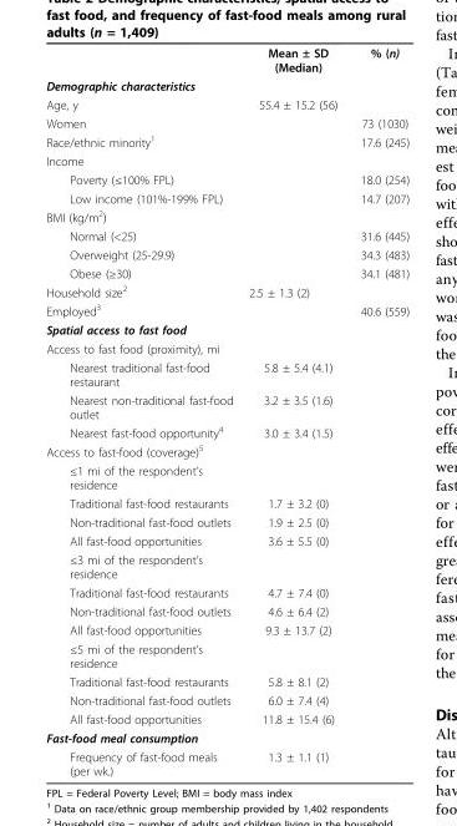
<table><thead><tr><td></td><td>Mean ± SD (Median)</td><td>% (n)</td></tr></thead><tbody><tr><td colspan="3">Demographic characteristics</td></tr><tr><td>Age, y</td><td>55.4 ± 15.2 (56)</td><td></td></tr><tr><td>Women</td><td></td><td>73 (1030)</td></tr><tr><td>Race/ethnic minority<sup>1</sup></td><td></td><td>17.6 (245)</td></tr><tr><td colspan="3">Income</td></tr><tr><td>Poverty (≤100% FPL)</td><td></td><td>18.0 (254)</td></tr><tr><td>Low income (101%-199% FPL)</td><td></td><td>14.7 (207)</td></tr><tr><td colspan="3">BMI (kg/m<sup>2</sup>)</td></tr><tr><td>Normal (&lt;25)</td><td></td><td>31.6 (445)</td></tr><tr><td>Overweight (25-29.9)</td><td></td><td>34.3 (483)</td></tr><tr><td>Obese (≥30)</td><td></td><td>34.1 (481)</td></tr><tr><td>Household size<sup>2</sup></td><td>2.5 ± 1.3 (2)</td><td></td></tr><tr><td>Employed<sup>3</sup></td><td></td><td>40.6 (559)</td></tr><tr><td colspan="3">Spatial access to fast food</td></tr><tr><td colspan="3">Access to fast food (proximity), mi</td></tr><tr><td>Nearest traditional fast-food restaurant</td><td>5.8 ± 5.4 (4.1)</td><td></td></tr><tr><td>Nearest non-traditional fast-food outlet</td><td>3.2 ± 3.5 (1.6)</td><td></td></tr><tr><td>Nearest fast-food opportunity<sup>4</sup></td><td>3.0 ± 3.4 (1.5)</td><td></td></tr><tr><td colspan="3">Access to fast-food (coverage)<sup>5</sup></td></tr><tr><td colspan="3">≤1 mi of the respondent’s residence</td></tr><tr><td>Traditional fast-food restaurants</td><td>1.7 ± 3.2 (0)</td><td></td></tr><tr><td>Non-traditional fast-food outlets</td><td>1.9 ± 2.5 (0)</td><td></td></tr><tr><td>All fast-food opportunities</td><td>3.6 ± 5.5 (0)</td><td></td></tr><tr><td colspan="3">≤3 mi of the respondent’s residence</td></tr><tr><td>Traditional fast-food restaurants</td><td>4.7 ± 7.4 (0)</td><td></td></tr><tr><td>Non-traditional fast-food outlets</td><td>4.6 ± 6.4 (2)</td><td></td></tr><tr><td>All fast-food opportunities</td><td>9.3 ± 13.7 (2)</td><td></td></tr><tr><td colspan="3">≤5 mi of the respondent’s residence</td></tr><tr><td>Traditional fast-food restaurants</td><td>5.8 ± 8.1 (2)</td><td></td></tr><tr><td>Non-traditional fast-food outlets</td><td>6.0 ± 7.4 (4)</td><td></td></tr><tr><td>All fast-food opportunities</td><td>11.8 ± 15.4 (6)</td><td></td></tr><tr><td colspan="3">Fast-food meal consumption</td></tr><tr><td>Frequency of fast-food meals (per wk.)</td><td>1.3 ± 1.1 (1)</td><td></td></tr></tbody></table>